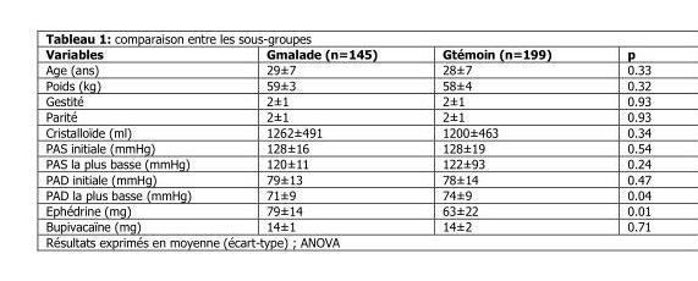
<table><thead><tr><td>Variables</td><td>Gmalade (n=145)</td><td>Gtémoin (n=199)</td><td>p</td></tr></thead><tbody><tr><td>Age (ans)</td><td>29±7</td><td>28±7</td><td>0.33</td></tr><tr><td>Poids (kg)</td><td>59±3</td><td>58±4</td><td>0.32</td></tr><tr><td>Gestité</td><td>2±1</td><td>2±1</td><td>0.93</td></tr><tr><td>Parité</td><td>2±1</td><td>2±1</td><td>0.93</td></tr><tr><td>Cristalloïde (ml)</td><td>1262±491</td><td>1200±463</td><td>0.34</td></tr><tr><td>PAS initiale (mmHg)</td><td>128±16</td><td>128±19</td><td>0.54</td></tr><tr><td>PAS la plus basse (mmHg)</td><td>120±11</td><td>122±93</td><td>0.24</td></tr><tr><td>PAD initiale (mmHg)</td><td>79±13</td><td>78±14</td><td>0.47</td></tr><tr><td>PAD la plus basse (mmHg)</td><td>71±9</td><td>74±9</td><td>0.04</td></tr><tr><td>Ephédrine (mg)</td><td>79±14</td><td>63±22</td><td>0.01</td></tr><tr><td>Bupivacaïne (mg)</td><td>14±1</td><td>14±2</td><td>0.71</td></tr></tbody></table>